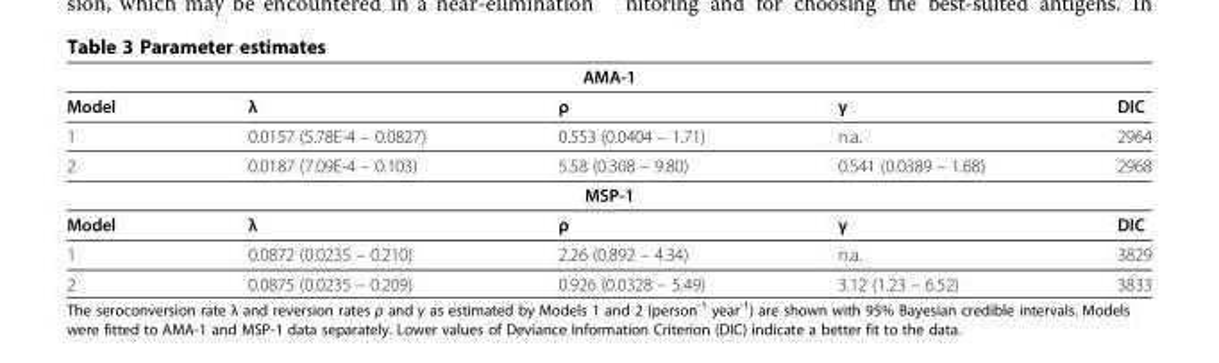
<table><thead><tr><td colspan="5">AMA-1</td></tr><tr><td>Model</td><td>λ</td><td>ρ</td><td>γ</td><td>DIC</td></tr></thead><tbody><tr><td>1</td><td>0.0157 (5.78E-4 – 0.0827)</td><td>0.553 (0.0404 – 1.71)</td><td>n.a.</td><td>2964</td></tr><tr><td>2</td><td>0.0187 (7.09E-4 – 0.103)</td><td>5.58 (0.308 – 9.80)</td><td>0.541 (0.0389 – 1.68)</td><td>2968</td></tr><tr><td colspan="5">MSP-1</td></tr><tr><td>Model</td><td>λ</td><td>ρ</td><td>γ</td><td>DIC</td></tr><tr><td>1</td><td>0.0872 (0.0235 – 0.210)</td><td>2.26 (0.892 – 4.34)</td><td>n.a.</td><td>3829</td></tr><tr><td>2</td><td>0.0875 (0.0235 – 0.209)</td><td>0.926 (0.0328 – 5.49)</td><td>3.12 (1.23 – 6.52)</td><td>3833</td></tr></tbody></table>